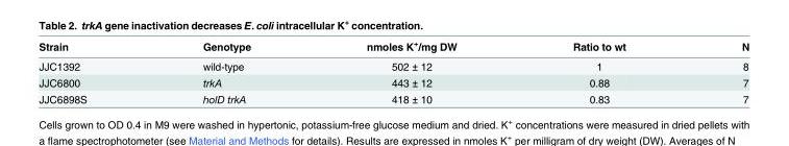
<table><thead><tr><td>Strain</td><td>Genotype</td><td>nmoles K<sup>+</sup>/mg DW</td><td>Ratio to wt</td><td>N</td></tr></thead><tbody><tr><td>JJC1392</td><td>wild-type</td><td>502 ± 12</td><td>1</td><td>8</td></tr><tr><td>JJC6800</td><td>trkA</td><td>443 ± 12</td><td>0.88</td><td>7</td></tr><tr><td>JJC6898S</td><td>holD trkA</td><td>418 ± 10</td><td>0.83</td><td>7</td></tr></tbody></table>